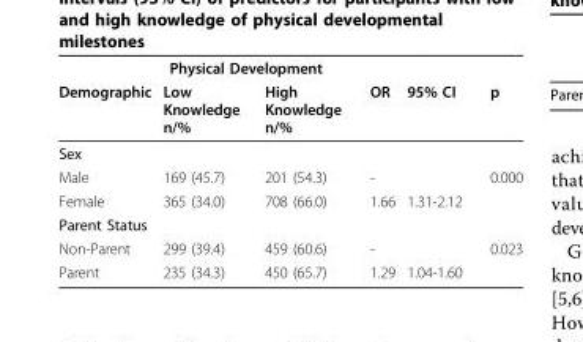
<table><thead><tr><td colspan="6">Physical Development</td></tr><tr><td>Demographic</td><td>Low Knowledge n/%</td><td>High Knowledge n/%</td><td>OR</td><td>95% CI</td><td>p</td></tr></thead><tbody><tr><td colspan="6">Sex</td></tr><tr><td>Male</td><td>169 (45.7)</td><td>201 (54.3)</td><td>-</td><td></td><td>0.000</td></tr><tr><td>Female</td><td>365 (34.0)</td><td>708 (66.0)</td><td>1.66</td><td>1.31-2.12</td><td></td></tr><tr><td colspan="6">Parent Status</td></tr><tr><td>Non-Parent</td><td>299 (39.4)</td><td>459 (60.6)</td><td>-</td><td></td><td>0.023</td></tr><tr><td>Parent</td><td>235 (34.3)</td><td>450 (65.7)</td><td>1.29</td><td>1.04-1.60</td><td></td></tr></tbody></table>